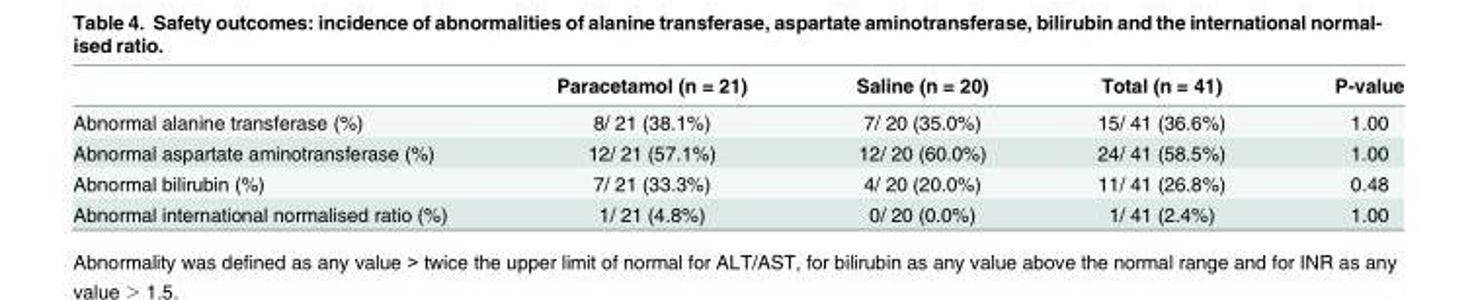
<table><thead><tr><td></td><td>Paracetamol (n = 21)</td><td>Saline (n = 20)</td><td>Total (n = 41)</td><td>P-value</td></tr></thead><tbody><tr><td>Abnormal alanine transferase (%)</td><td>8/ 21 (38.1%)</td><td>7/ 20 (35.0%)</td><td>15/ 41 (36.6%)</td><td>1.00</td></tr><tr><td>Abnormal aspartate aminotransferase (%)</td><td>12/ 21 (57.1%)</td><td>12/ 20 (60.0%)</td><td>24/ 41 (58.5%)</td><td>1.00</td></tr><tr><td>Abnormal bilirubin (%)</td><td>7/ 21 (33.3%)</td><td>4/ 20 (20.0%)</td><td>11/ 41 (26.8%)</td><td>0.48</td></tr><tr><td>Abnormal international normalised ratio (%)</td><td>1/ 21 (4.8%)</td><td>0/ 20 (0.0%)</td><td>1/ 41 (2.4%)</td><td>1.00</td></tr></tbody></table>